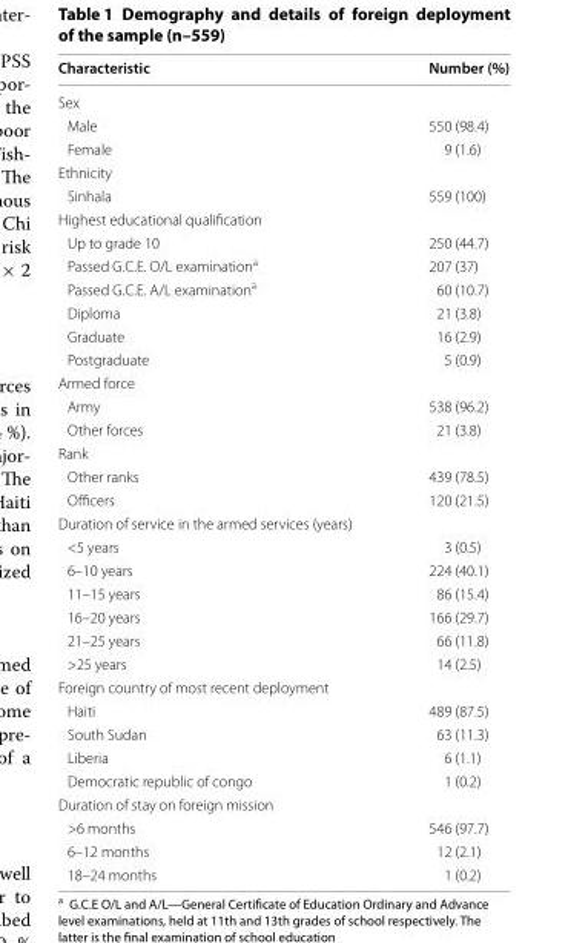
<table><thead><tr><td>Characteristic</td><td>Number (%)</td></tr></thead><tbody><tr><td colspan="2">Sex</td></tr><tr><td>Male</td><td>550 (98.4)</td></tr><tr><td>Female</td><td>9 (1.6)</td></tr><tr><td colspan="2">Ethnicity</td></tr><tr><td>Sinhala</td><td>559 (100)</td></tr><tr><td colspan="2">Highest educational qualification</td></tr><tr><td>Up to grade 10</td><td>250 (44.7)</td></tr><tr><td>Passed G.C.E. O/L examination<sup>a</sup></td><td>207 (37)</td></tr><tr><td>Passed G.C.E. A/L examination<sup>a</sup></td><td>60 (10.7)</td></tr><tr><td>Diploma</td><td>21 (3.8)</td></tr><tr><td>Graduate</td><td>16 (2.9)</td></tr><tr><td>Postgraduate</td><td>5 (0.9)</td></tr><tr><td colspan="2">Armed force</td></tr><tr><td>Army</td><td>538 (96.2)</td></tr><tr><td>Other forces</td><td>21 (3.8)</td></tr><tr><td colspan="2">Rank</td></tr><tr><td>Other ranks</td><td>439 (78.5)</td></tr><tr><td>Officers</td><td>120 (21.5)</td></tr><tr><td colspan="2">Duration of service in the armed services (years)</td></tr><tr><td>&lt;5 years</td><td>3 (0.5)</td></tr><tr><td>6–10 years</td><td>224 (40.1)</td></tr><tr><td>11–15 years</td><td>86 (15.4)</td></tr><tr><td>16–20 years</td><td>166 (29.7)</td></tr><tr><td>21–25 years</td><td>66 (11.8)</td></tr><tr><td>&gt;25 years</td><td>14 (2.5)</td></tr><tr><td colspan="2">Foreign country of most recent deployment</td></tr><tr><td>Haiti</td><td>489 (87.5)</td></tr><tr><td>South Sudan</td><td>63 (11.3)</td></tr><tr><td>Liberia</td><td>6 (1.1)</td></tr><tr><td>Democratic republic of congo</td><td>1 (0.2)</td></tr><tr><td colspan="2">Duration of stay on foreign mission</td></tr><tr><td>&gt;6 months</td><td>546 (97.7)</td></tr><tr><td>6–12 months</td><td>12 (2.1)</td></tr><tr><td>18–24 months</td><td>1 (0.2)</td></tr></tbody></table>